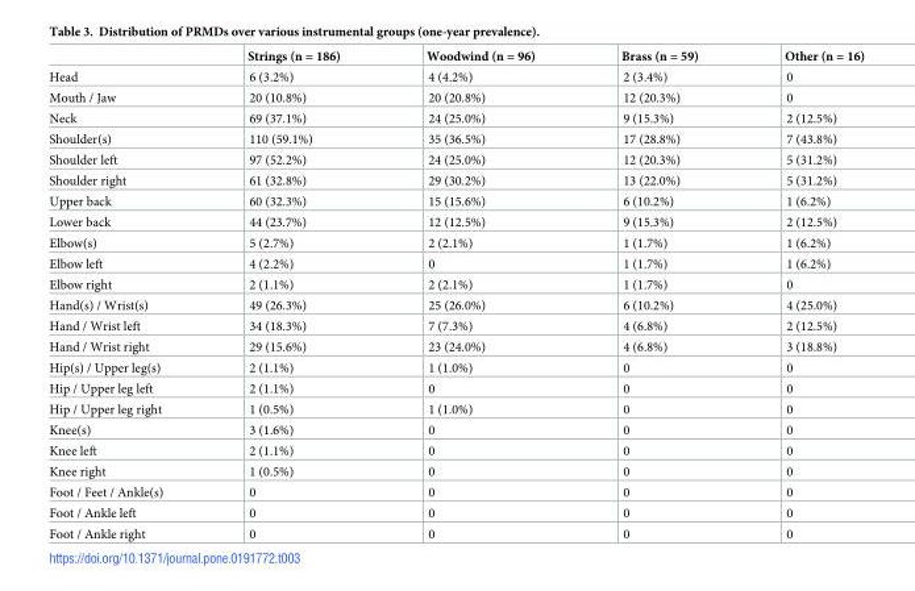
<table><thead><tr><td></td><td>Strings (n = 186)</td><td>Woodwind (n = 96)</td><td>Brass (n = 59)</td><td>Other (n = 16)</td></tr></thead><tbody><tr><td>Head</td><td>6 (3.2%)</td><td>4 (4.2%)</td><td>2 (3.4%)</td><td>0</td></tr><tr><td>Mouth / Jaw</td><td>20 (10.8%)</td><td>20 (20.8%)</td><td>12 (20.3%)</td><td>0</td></tr><tr><td>Neck</td><td>69 (37.1%)</td><td>24 (25.0%)</td><td>9 (15.3%)</td><td>2 (12.5%)</td></tr><tr><td>Shoulder(s)</td><td>110 (59.1%)</td><td>35 (36.5%)</td><td>17 (28.8%)</td><td>7 (43.8%)</td></tr><tr><td>Shoulder left</td><td>97 (52.2%)</td><td>24 (25.0%)</td><td>12 (20.3%)</td><td>5 (31.2%)</td></tr><tr><td>Shoulder right</td><td>61 (32.8%)</td><td>29 (30.2%)</td><td>13 (22.0%)</td><td>5 (31.2%)</td></tr><tr><td>Upper back</td><td>60 (32.3%)</td><td>15 (15.6%)</td><td>6 (10.2%)</td><td>1 (6.2%)</td></tr><tr><td>Lower back</td><td>44 (23.7%)</td><td>12 (12.5%)</td><td>9 (15.3%)</td><td>2 (12.5%)</td></tr><tr><td>Elbow(s)</td><td>5 (2.7%)</td><td>2 (2.1%)</td><td>1 (1.7%)</td><td>1 (6.2%)</td></tr><tr><td>Elbow left</td><td>4 (2.2%)</td><td>0</td><td>1 (1.7%)</td><td>1 (6.2%)</td></tr><tr><td>Elbow right</td><td>2 (1.1%)</td><td>2 (2.1%)</td><td>1 (1.7%)</td><td>0</td></tr><tr><td>Hand(s) / Wrist(s)</td><td>49 (26.3%)</td><td>25 (26.0%)</td><td>6 (10.2%)</td><td>4 (25.0%)</td></tr><tr><td>Hand / Wrist left</td><td>34 (18.3%)</td><td>7 (7.3%)</td><td>4 (6.8%)</td><td>2 (12.5%)</td></tr><tr><td>Hand / Wrist right</td><td>29 (15.6%)</td><td>23 (24.0%)</td><td>4 (6.8%)</td><td>3 (18.8%)</td></tr><tr><td>Hip(s) / Upper leg(s)</td><td>2 (1.1%)</td><td>1 (1.0%)</td><td>0</td><td>0</td></tr><tr><td>Hip / Upper leg left</td><td>2 (1.1%)</td><td>0</td><td>0</td><td>0</td></tr><tr><td>Hip / Upper leg right</td><td>1 (0.5%)</td><td>1 (1.0%)</td><td>0</td><td>0</td></tr><tr><td>Knee(s)</td><td>3 (1.6%)</td><td>0</td><td>0</td><td>0</td></tr><tr><td>Knee left</td><td>2 (1.1%)</td><td>0</td><td>0</td><td>0</td></tr><tr><td>Knee right</td><td>1 (0.5%)</td><td>0</td><td>0</td><td>0</td></tr><tr><td>Foot / Feet / Ankle(s)</td><td>0</td><td>0</td><td>0</td><td>0</td></tr><tr><td>Foot / Ankle left</td><td>0</td><td>0</td><td>0</td><td>0</td></tr><tr><td>Foot / Ankle right</td><td>0</td><td>0</td><td>0</td><td>0</td></tr></tbody></table>